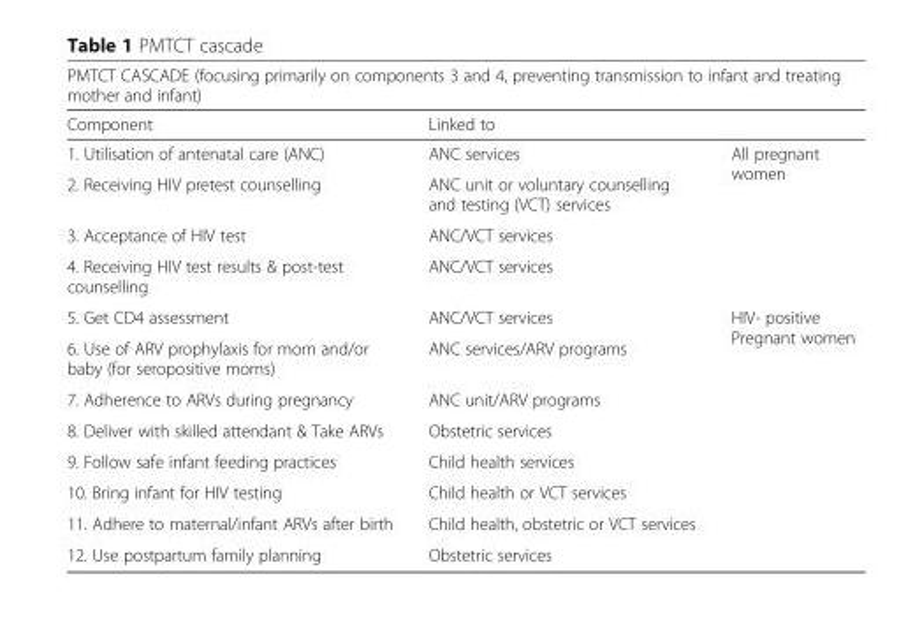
<table><thead><tr><td colspan="3">PMTCT CASCADE (focusing primarily on components 3 and 4, preventing transmission to infant and treating mother and infant)</td></tr><tr><td>Component</td><td>Linked to</td><td></td></tr></thead><tbody><tr><td>1. Utilisation of antenatal care (ANC)</td><td>ANC services</td><td rowspan="4">All pregnant women</td></tr><tr><td>2. Receiving HIV pretest counselling</td><td>ANC unit or voluntary counselling and testing (VCT) services</td></tr><tr><td>3. Acceptance of HIV test</td><td>ANC/VCT services</td></tr><tr><td>4. Receiving HIV test results &amp; post-test counselling</td><td>ANC/VCT services</td></tr><tr><td>5. Get CD4 assessment</td><td>ANC/VCT services</td><td rowspan="8">HIV- positive Pregnant women</td></tr><tr><td>6. Use of ARV prophylaxis for mom and/or baby (for seropositive moms)</td><td>ANC services/ARV programs</td></tr><tr><td>7. Adherence to ARVs during pregnancy</td><td>ANC unit/ARV programs</td></tr><tr><td>8. Deliver with skilled attendant &amp; Take ARVs</td><td>Obstetric services</td></tr><tr><td>9. Follow safe infant feeding practices</td><td>Child health services</td></tr><tr><td>10. Bring infant for HIV testing</td><td>Child health or VCT services</td></tr><tr><td>11. Adhere to maternal/infant ARVs after birth</td><td>Child health, obstetric or VCT services</td></tr><tr><td>12. Use postpartum family planning</td><td>Obstetric services</td></tr></tbody></table>